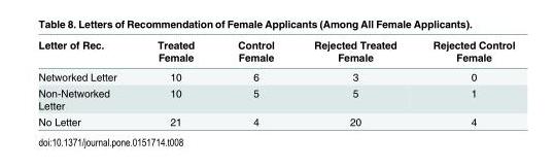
<table><thead><tr><td>Letter of Rec.</td><td>Treated Female</td><td>Control Female</td><td>Rejected Treated Female</td><td>Rejected Control Female</td></tr></thead><tbody><tr><td>Networked Letter</td><td>10</td><td>6</td><td>3</td><td>0</td></tr><tr><td>Non-Networked Letter</td><td>10</td><td>5</td><td>5</td><td>1</td></tr><tr><td>No Letter</td><td>21</td><td>4</td><td>20</td><td>4</td></tr></tbody></table>